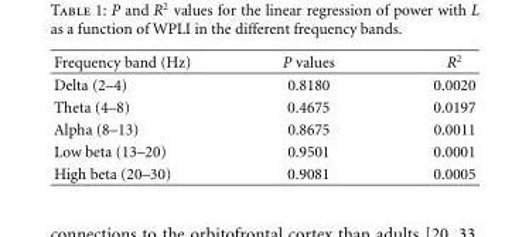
<table><thead><tr><td>Frequency band (Hz)</td><td>P values</td><td>R<sup>2</sup></td></tr></thead><tbody><tr><td>Delta (2–4)</td><td>0.8180</td><td>0.0020</td></tr><tr><td>Theta (4–8)</td><td>0.4675</td><td>0.0197</td></tr><tr><td>Alpha (8–13)</td><td>0.8675</td><td>0.0011</td></tr><tr><td>Low beta (13–20)</td><td>0.9501</td><td>0.0001</td></tr><tr><td>High beta (20–30)</td><td>0.9081</td><td>0.0005</td></tr></tbody></table>